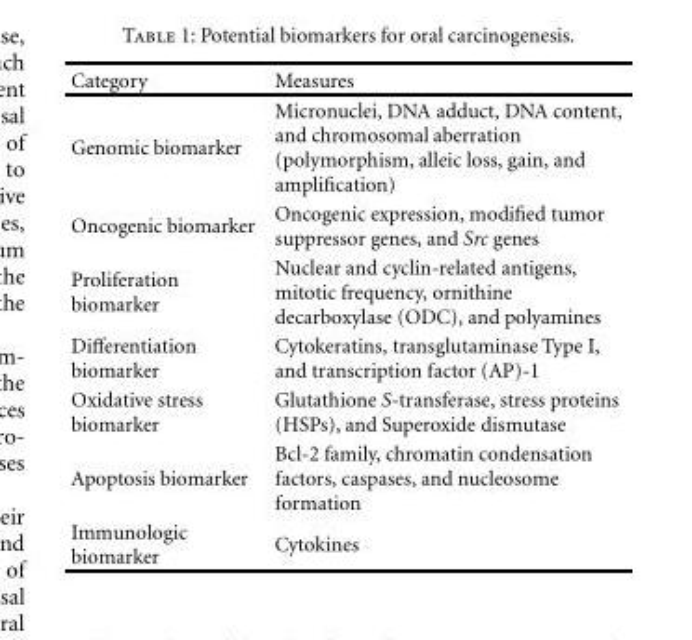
<table><thead><tr><td>Category</td><td>Measures</td></tr></thead><tbody><tr><td>Genomic biomarker</td><td>Micronuclei, DNA adduct, DNA content, and chromosomal aberration (polymorphism, alleic loss, gain, and amplification)</td></tr><tr><td>Oncogenic biomarker</td><td>Oncogenic expression, modified tumor suppressor genes, and Src genes</td></tr><tr><td>Proliferation biomarker</td><td>Nuclear and cyclin-related antigens, mitotic frequency, ornithine decarboxylase (ODC), and polyamines</td></tr><tr><td>Differentiation biomarker</td><td>Cytokeratins, transglutaminase Type I, and transcription factor (AP)-1</td></tr><tr><td>Oxidative stress biomarker</td><td>Glutathione S-transferase, stress proteins (HSPs), and Superoxide dismutase</td></tr><tr><td>Apoptosis biomarker</td><td>Bcl-2 family, chromatin condensation factors, caspases, and nucleosome formation</td></tr><tr><td>Immunologic biomarker</td><td>Cytokines</td></tr></tbody></table>